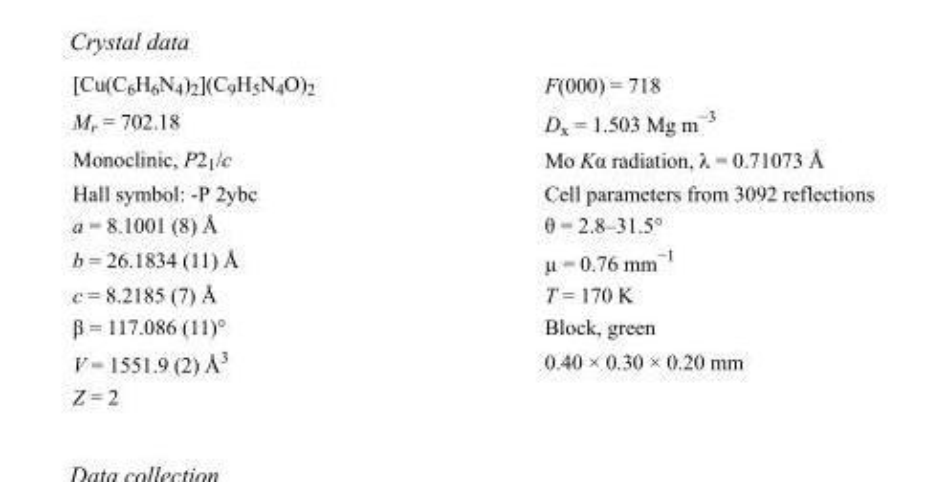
<table><tbody><tr><td>[Cu(C<sub>6</sub>H<sub>6</sub>N<sub>4</sub>)<sub>2</sub>](C<sub>9</sub>H<sub>5</sub>N<sub>4</sub>O)<sub>2</sub></td><td>F(000) = 718</td></tr><tr><td>M<sub>r</sub> = 702.18</td><td>D<sub>x</sub> = 1.503 Mg m<sup>−3</sup></td></tr><tr><td>Monoclinic, P2<sub>1</sub>/c</td><td>Mo Kα radiation, λ = 0.71073 Å</td></tr><tr><td>Hall symbol: -P 2ybc</td><td>Cell parameters from 3092 reflections</td></tr><tr><td>a = 8.1001 (8) Å</td><td>θ = 2.8–31.5°</td></tr><tr><td>b = 26.1834 (11) Å</td><td>µ = 0.76 mm<sup>−1</sup></td></tr><tr><td>c = 8.2185 (7) Å</td><td>T = 170 K</td></tr><tr><td>β = 117.086 (11)°</td><td>Block, green</td></tr><tr><td>V = 1551.9 (2) Å<sup>3</sup></td><td>0.40 × 0.30 × 0.20 mm</td></tr><tr><td>Z = 2</td><td></td></tr></tbody></table>